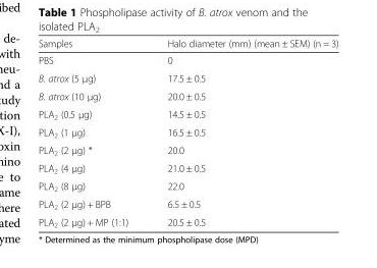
<table><thead><tr><td>Samples</td><td>Halo diameter (mm) (mean ± SEM) (n = 3)</td></tr></thead><tbody><tr><td>PBS</td><td>0</td></tr><tr><td>B. atrox (5 μg)</td><td>17.5 ± 0.5</td></tr><tr><td>B. atrox (10 μg)</td><td>20.0 ± 0.5</td></tr><tr><td>PLA<sub>2</sub> (0.5 μg)</td><td>14.5 ± 0.5</td></tr><tr><td>PLA<sub>2</sub> (1 μg)</td><td>16.5 ± 0.5</td></tr><tr><td>PLA<sub>2</sub> (2 μg) *</td><td>20.0</td></tr><tr><td>PLA<sub>2</sub> (4 μg)</td><td>21.0 ± 0.5</td></tr><tr><td>PLA<sub>2</sub> (8 μg)</td><td>22.0</td></tr><tr><td>PLA<sub>2</sub> (2 μg) + BPB</td><td>6.5 ± 0.5</td></tr><tr><td>PLA<sub>2</sub> (2 μg) + MP (1:1)</td><td>20.5 ± 0.5</td></tr></tbody></table>